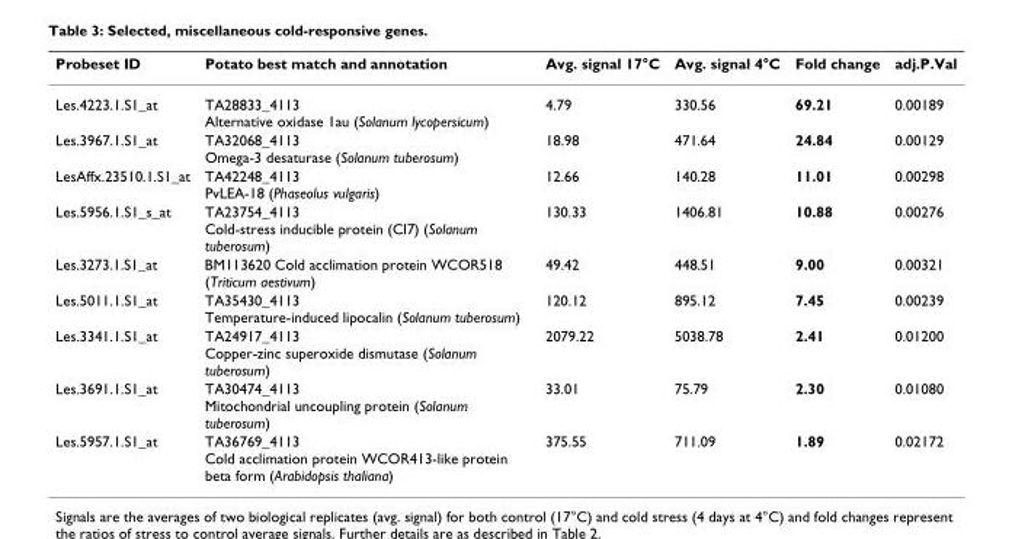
<table><thead><tr><td>Probeset ID</td><td>Potato best match and annotation</td><td>Avg. signal 17°C</td><td>Avg. signal 4°C</td><td>Fold change</td><td>adj.P.Val</td></tr></thead><tbody><tr><td>Les.4223.1.S1_at</td><td>TA28833_4113 Alternative oxidase 1au (Solanum lycopersicum)</td><td>4.79</td><td>330.56</td><td>69.21</td><td>0.00189</td></tr><tr><td>Les.3967.1.S1_at</td><td>TA32068_4113 Omega-3 desaturase (Solanum tuberosum)</td><td>18.98</td><td>471.64</td><td>24.84</td><td>0.00129</td></tr><tr><td>LesAffx.23510.1.S1_at</td><td>TA42248_4113 PvLEA-18 (Phaseolus vulgaris)</td><td>12.66</td><td>140.28</td><td>11.01</td><td>0.00298</td></tr><tr><td>Les.5956.1.S1_s_at</td><td>TA23754_4113 Cold-stress inducible protein (CI7) (Solanum tuberosum)</td><td>130.33</td><td>1406.81</td><td>10.88</td><td>0.00276</td></tr><tr><td>Les.3273.1.S1_at</td><td>BM113620 Cold acclimation protein WCOR518 (Triticum aestivum)</td><td>49.42</td><td>448.51</td><td>9.00</td><td>0.00321</td></tr><tr><td>Les.5011.1.S1_at</td><td>TA35430_4113 Temperature-induced lipocalin (Solanum tuberosum)</td><td>120.12</td><td>895.12</td><td>7.45</td><td>0.00239</td></tr><tr><td>Les.3341.1.S1_at</td><td>TA24917_4113 Copper-zinc superoxide dismutase (Solanum tuberosum)</td><td>2079.22</td><td>5038.78</td><td>2.41</td><td>0.01200</td></tr><tr><td>Les.3691.1.S1_at</td><td>TA30474_4113 Mitochondrial uncoupling protein (Solanum tuberosum)</td><td>33.01</td><td>75.79</td><td>2.30</td><td>0.01080</td></tr><tr><td>Les.5957.1.S1_at</td><td>TA36769_4113 Cold acclimation protein WCOR413-like protein beta form (Arabidopsis thaliana)</td><td>375.55</td><td>711.09</td><td>1.89</td><td>0.02172</td></tr></tbody></table>